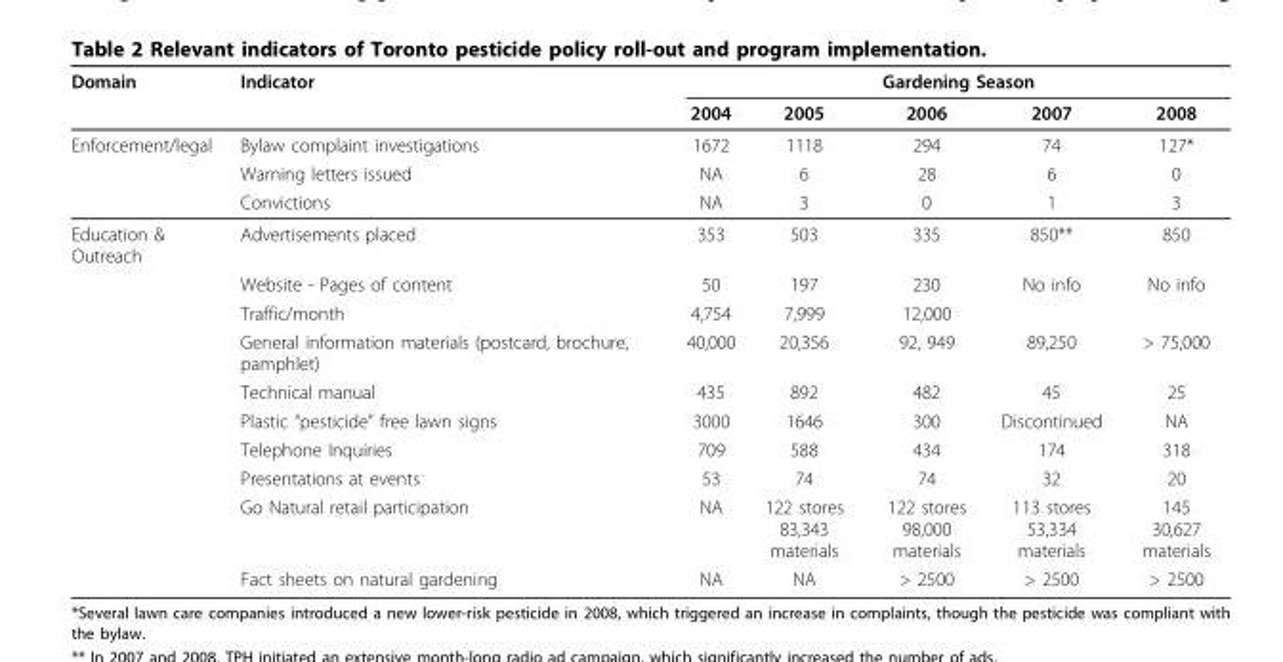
<table><thead><tr><td rowspan="2">Domain</td><td rowspan="2">Indicator</td><td colspan="5">Gardening Season</td></tr><tr><td>2004</td><td>2005</td><td>2006</td><td>2007</td><td>2008</td></tr></thead><tbody><tr><td rowspan="3">Enforcement/legal</td><td>Bylaw complaint investigations</td><td>1672</td><td>1118</td><td>294</td><td>74</td><td>127*</td></tr><tr><td>Warning letters issued</td><td>NA</td><td>6</td><td>28</td><td>6</td><td>0</td></tr><tr><td>Convictions</td><td>NA</td><td>3</td><td>0</td><td>1</td><td>3</td></tr><tr><td rowspan="10">Education &amp; Outreach</td><td>Advertisements placed</td><td>353</td><td>503</td><td>335</td><td>850**</td><td>850</td></tr><tr><td>Website - Pages of content</td><td>50</td><td>197</td><td>230</td><td>No info</td><td>No info</td></tr><tr><td>Traffic/month</td><td>4,754</td><td>7,999</td><td>12,000</td><td></td><td></td></tr><tr><td>General information materials (postcard, brochure, pamphlet)</td><td>40,000</td><td>20,356</td><td>92, 949</td><td>89,250</td><td>&gt; 75,000</td></tr><tr><td>Technical manual</td><td>435</td><td>892</td><td>482</td><td>45</td><td>25</td></tr><tr><td>Plastic “pesticide” free lawn signs</td><td>3000</td><td>1646</td><td>300</td><td>Discontinued</td><td>NA</td></tr><tr><td>Telephone Inquiries</td><td>709</td><td>588</td><td>434</td><td>174</td><td>318</td></tr><tr><td>Presentations at events</td><td>53</td><td>74</td><td>74</td><td>32</td><td>20</td></tr><tr><td>Go Natural retail participation</td><td>NA</td><td>122 stores 83,343 materials</td><td>122 stores 98,000 materials</td><td>113 stores 53,334 materials</td><td>145 30,627 materials</td></tr><tr><td>Fact sheets on natural gardening</td><td>NA</td><td>NA</td><td>&gt; 2500</td><td>&gt; 2500</td><td>&gt; 2500</td></tr></tbody></table>